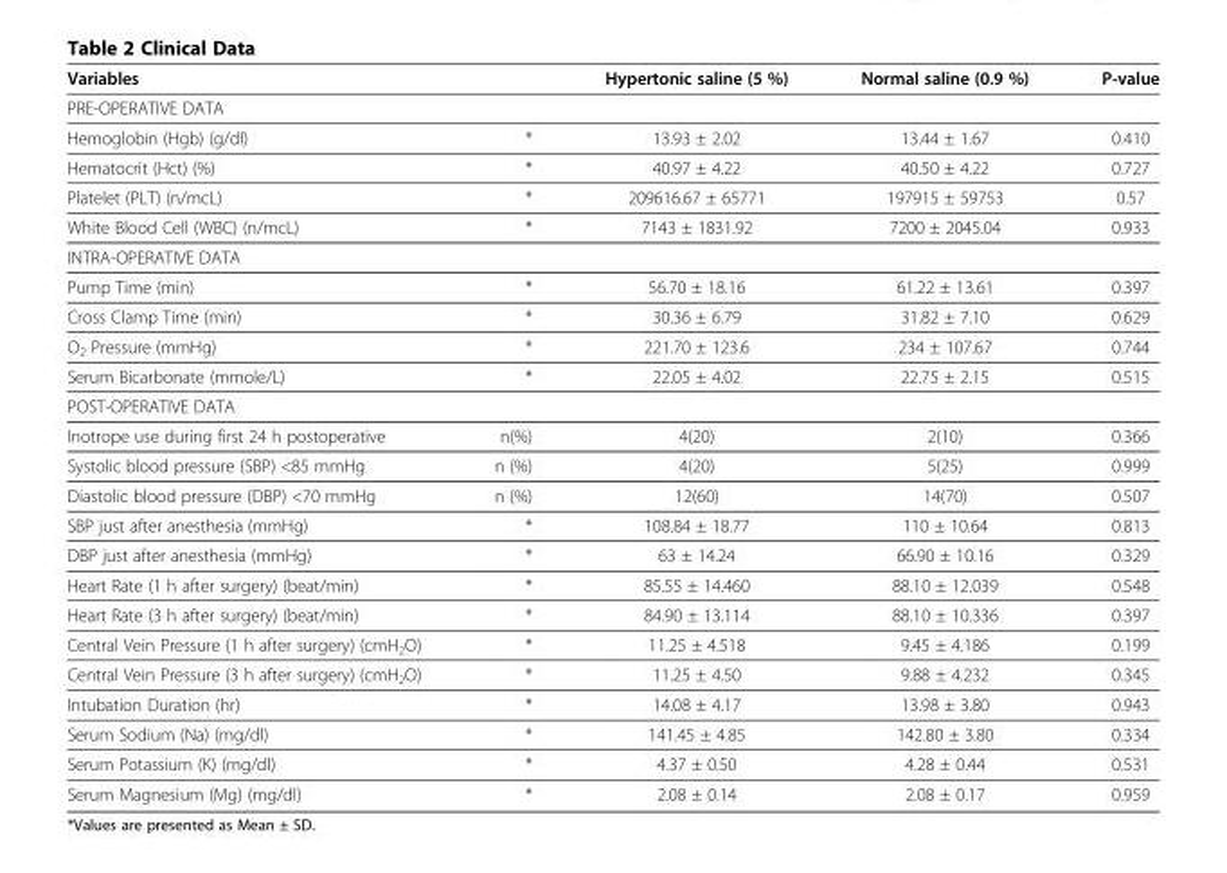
<table><thead><tr><td colspan="2">Variables</td><td rowspan="2">Hypertonic saline (5 %)</td><td rowspan="2">Normal saline (0.9 %)</td><td rowspan="2">P-value</td></tr><tr><td>PRE-OPERATIVE DATA</td><td></td></tr></thead><tbody><tr><td>Hemoglobin (Hgb) (g/dl)</td><td>*</td><td>13.93 ± 2.02</td><td>13.44 ± 1.67</td><td>0.410</td></tr><tr><td>Hematocrit (Hct) (%)</td><td>*</td><td>40.97 ± 4.22</td><td>40.50 ± 4.22</td><td>0.727</td></tr><tr><td>Platelet (PLT) (n/mcL)</td><td>*</td><td>209616.67 ± 65771</td><td>197915 ± 59753</td><td>0.57</td></tr><tr><td>White Blood Cell (WBC) (n/mcL)</td><td>*</td><td>7143 ± 1831.92</td><td>7200 ± 2045.04</td><td>0.933</td></tr><tr><td colspan="5">INTRA-OPERATIVE DATA</td></tr><tr><td>Pump Time (min)</td><td>*</td><td>56.70 ± 18.16</td><td>61.22 ± 13.61</td><td>0.397</td></tr><tr><td>Cross Clamp Time (min)</td><td>*</td><td>30.36 ± 6.79</td><td>31.82 ± 7.10</td><td>0.629</td></tr><tr><td>O<sub>2</sub> Pressure (mmHg)</td><td>*</td><td>221.70 ± 123.6</td><td>234 ± 107.67</td><td>0.744</td></tr><tr><td>Serum Bicarbonate (mmole/L)</td><td>*</td><td>22.05 ± 4.02</td><td>22.75 ± 2.15</td><td>0.515</td></tr><tr><td colspan="5">POST-OPERATIVE DATA</td></tr><tr><td>Inotrope use during first 24 h postoperative</td><td>n(%)</td><td>4(20)</td><td>2(10)</td><td>0.366</td></tr><tr><td>Systolic blood pressure (SBP) &lt;85 mmHg</td><td>n (%)</td><td>4(20)</td><td>5(25)</td><td>0.999</td></tr><tr><td>Diastolic blood pressure (DBP) &lt;70 mmHg</td><td>n (%)</td><td>12(60)</td><td>14(70)</td><td>0.507</td></tr><tr><td>SBP just after anesthesia (mmHg)</td><td>*</td><td>108.84 ± 18.77</td><td>110 ± 10.64</td><td>0.813</td></tr><tr><td>DBP just after anesthesia (mmHg)</td><td>*</td><td>63 ± 14.24</td><td>66.90 ± 10.16</td><td>0.329</td></tr><tr><td>Heart Rate (1 h after surgery) (beat/min)</td><td>*</td><td>85.55 ± 14.460</td><td>88.10 ± 12.039</td><td>0.548</td></tr><tr><td>Heart Rate (3 h after surgery) (beat/min)</td><td>*</td><td>84.90 ± 13.114</td><td>88.10 ± 10.336</td><td>0.397</td></tr><tr><td>Central Vein Pressure (1 h after surgery) (cmH<sub>2</sub>O)</td><td>*</td><td>11.25 ± 4.518</td><td>9.45 ± 4.186</td><td>0.199</td></tr><tr><td>Central Vein Pressure (3 h after surgery) (cmH<sub>2</sub>O)</td><td>*</td><td>11.25 ± 4.50</td><td>9.88 ± 4.232</td><td>0.345</td></tr><tr><td>Intubation Duration (hr)</td><td>*</td><td>14.08 ± 4.17</td><td>13.98 ± 3.80</td><td>0.943</td></tr><tr><td>Serum Sodium (Na) (mg/dl)</td><td>*</td><td>141.45 ± 4.85</td><td>142.80 ± 3.80</td><td>0.334</td></tr><tr><td>Serum Potassium (K) (mg/dl)</td><td>*</td><td>4.37 ± 0.50</td><td>4.28 ± 0.44</td><td>0.531</td></tr><tr><td>Serum Magnesium (Mg) (mg/dl)</td><td>*</td><td>2.08 ± 0.14</td><td>2.08 ± 0.17</td><td>0.959</td></tr></tbody></table>